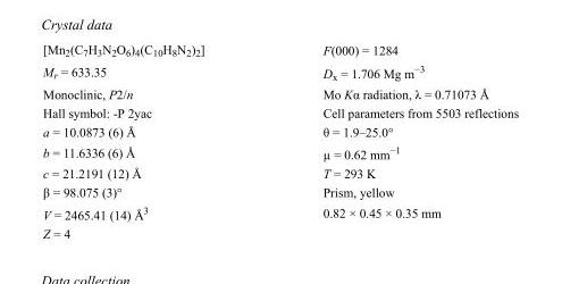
<table><tbody><tr><td>[Mn<sub>2</sub>(C<sub>7</sub>H<sub>3</sub>N<sub>2</sub>O<sub>6</sub>)<sub>4</sub>(C<sub>10</sub>H<sub>8</sub>N<sub>2</sub>)<sub>2</sub>]</td><td>F(000) = 1284</td></tr><tr><td>M<sub>r</sub> = 633.35</td><td>D<sub>x</sub> = 1.706 Mg m<sup>−3</sup></td></tr><tr><td>Monoclinic, P2/n</td><td>Mo Kα radiation, λ = 0.71073 Å</td></tr><tr><td>Hall symbol: -P 2yac</td><td>Cell parameters from 5503 reflections</td></tr><tr><td>a = 10.0873 (6) Å</td><td>θ = 1.9–25.0°</td></tr><tr><td>b = 11.6336 (6) Å</td><td>µ = 0.62 mm<sup>−1</sup></td></tr><tr><td>c = 21.2191 (12) Å</td><td>T = 293 K</td></tr><tr><td>β = 98.075 (3)°</td><td>Prism, yellow</td></tr><tr><td>V = 2465.41 (14) Å<sup>3</sup></td><td>0.82 × 0.45 × 0.35 mm</td></tr><tr><td>Z = 4</td><td></td></tr></tbody></table>